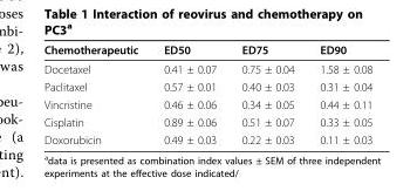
<table><thead><tr><td>Chemotherapeutic</td><td>ED50</td><td>ED75</td><td>ED90</td></tr></thead><tbody><tr><td>Docetaxel</td><td>0.41 ± 0.07</td><td>0.75 ± 0.04</td><td>1.58 ± 0.08</td></tr><tr><td>Paclitaxel</td><td>0.57 ± 0.01</td><td>0.40 ± 0.03</td><td>0.31 ± 0.04</td></tr><tr><td>Vincristine</td><td>0.46 ± 0.06</td><td>0.34 ± 0.05</td><td>0.44 ± 0.11</td></tr><tr><td>Cisplatin</td><td>0.89 ± 0.06</td><td>0.51 ± 0.07</td><td>0.33 ± 0.05</td></tr><tr><td>Doxorubicin</td><td>0.49 ± 0.03</td><td>0.22 ± 0.03</td><td>0.11 ± 0.03</td></tr></tbody></table>